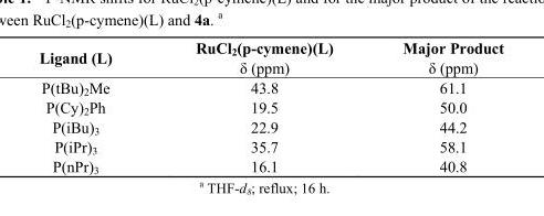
<table><tbody><tr><td>Ligand (L)</td><td>RuCl2(p-cymene)(L) δ (ppm)</td><td>Major Product δ (ppm)</td></tr><tr><td>P(tBu)2Me</td><td>43.8</td><td>61.1</td></tr><tr><td>P(Cy)2Ph</td><td>19.5</td><td>50.0</td></tr><tr><td>P(iBu)3</td><td>22.9</td><td>44.2</td></tr><tr><td>P(iPr)3</td><td>35.7</td><td>58.1</td></tr><tr><td>P(nPr)3</td><td>16.1</td><td>40.8</td></tr></tbody></table>